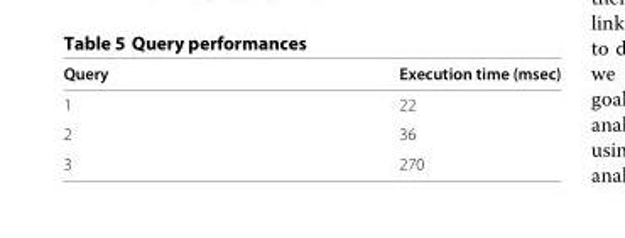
<table><thead><tr><td>Query</td><td>Execution time (msec)</td></tr></thead><tbody><tr><td>1</td><td>22</td></tr><tr><td>2</td><td>36</td></tr><tr><td>3</td><td>270</td></tr></tbody></table>